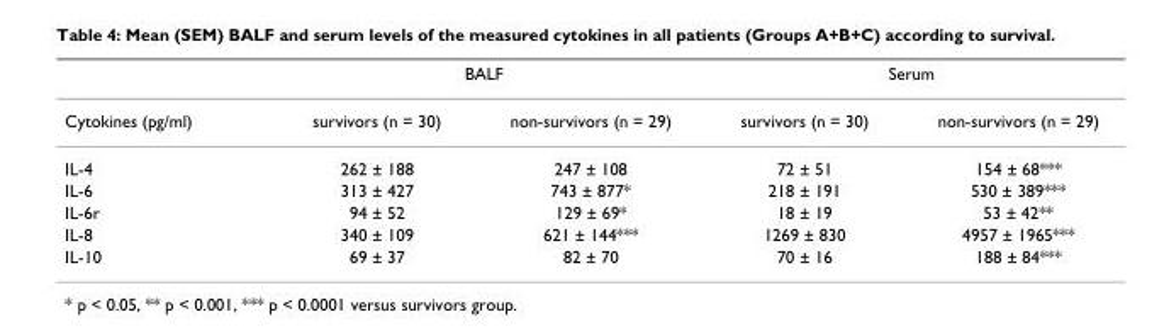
<table><thead><tr><td rowspan="2">Cytokines (pg/ml)</td><td colspan="2">BALF</td><td colspan="2">Serum</td></tr><tr><td>survivors (n = 30)</td><td>non-survivors (n = 29)</td><td>survivors (n = 30)</td><td>non-survivors (n = 29)</td></tr></thead><tbody><tr><td>IL-4</td><td>262 ± 188</td><td>247 ± 108</td><td>72 ± 51</td><td>154 ± 68***</td></tr><tr><td>IL-6</td><td>313 ± 427</td><td>743 ± 877*</td><td>218 ± 191</td><td>530 ± 389***</td></tr><tr><td>IL-6r</td><td>94 ± 52</td><td>129 ± 69*</td><td>18 ± 19</td><td>53 ± 42**</td></tr><tr><td>IL-8</td><td>340 ± 109</td><td>621 ± 144***</td><td>1269 ± 830</td><td>4957 ± 1965***</td></tr><tr><td>IL-10</td><td>69 ± 37</td><td>82 ± 70</td><td>70 ± 16</td><td>188 ± 84***</td></tr></tbody></table>